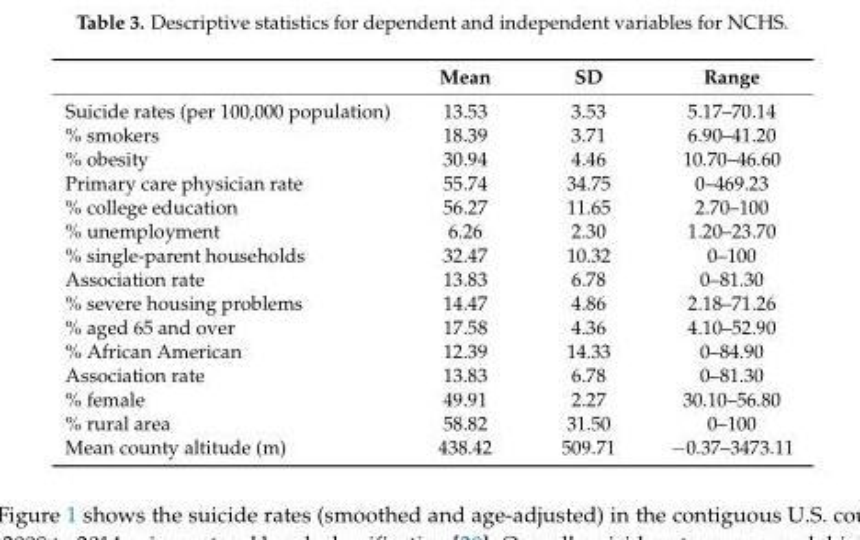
<table><thead><tr><td></td><td>Mean</td><td>SD</td><td>Range</td></tr></thead><tbody><tr><td>Suicide rates (per 100,000 population)</td><td>13.53</td><td>3.53</td><td>5.17–70.14</td></tr><tr><td>% smokers</td><td>18.39</td><td>3.71</td><td>6.90–41.20</td></tr><tr><td>% obesity</td><td>30.94</td><td>4.46</td><td>10.70–46.60</td></tr><tr><td>Primary care physician rate</td><td>55.74</td><td>34.75</td><td>0–469.23</td></tr><tr><td>% college education</td><td>56.27</td><td>11.65</td><td>2.70–100</td></tr><tr><td>% unemployment</td><td>6.26</td><td>2.30</td><td>1.20–23.70</td></tr><tr><td>% single-parent households</td><td>32.47</td><td>10.32</td><td>0–100</td></tr><tr><td>Association rate</td><td>13.83</td><td>6.78</td><td>0–81.30</td></tr><tr><td>% severe housing problems</td><td>14.47</td><td>4.86</td><td>2.18–71.26</td></tr><tr><td>% aged 65 and over</td><td>17.58</td><td>4.36</td><td>4.10–52.90</td></tr><tr><td>% African American</td><td>12.39</td><td>14.33</td><td>0–84.90</td></tr><tr><td>Association rate</td><td>13.83</td><td>6.78</td><td>0–81.30</td></tr><tr><td>% female</td><td>49.91</td><td>2.27</td><td>30.10–56.80</td></tr><tr><td>% rural area</td><td>58.82</td><td>31.50</td><td>0–100</td></tr><tr><td>Mean county altitude (m)</td><td>438.42</td><td>509.71</td><td>−0.37–3473.11</td></tr></tbody></table>